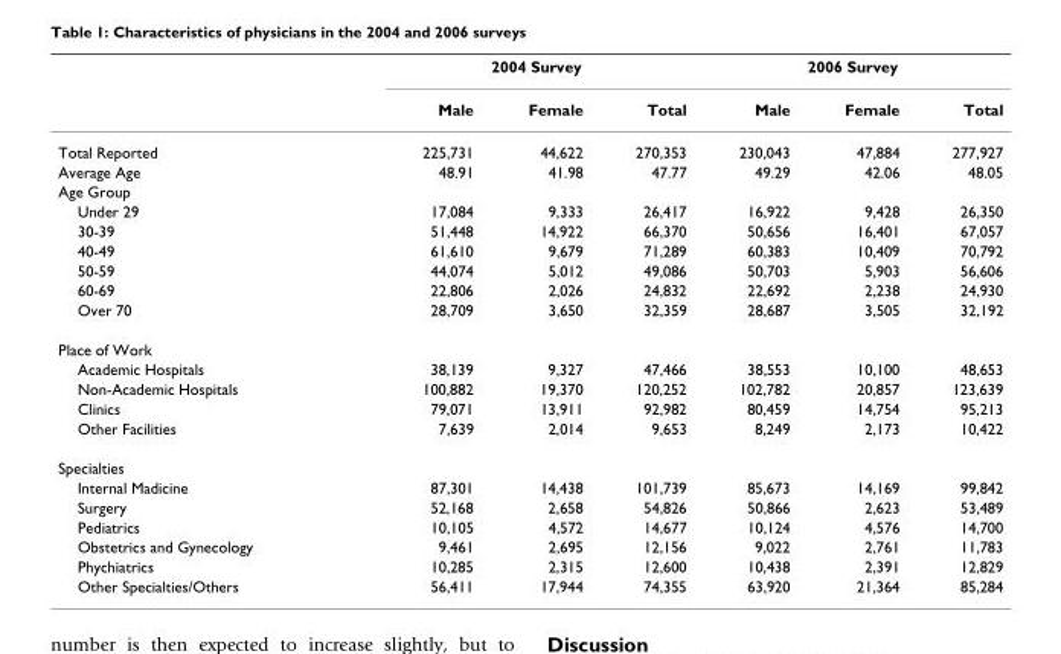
<table><thead><tr><td rowspan="2"></td><td colspan="3">2004 Survey</td><td colspan="3">2006 Survey</td></tr><tr><td>Male</td><td>Female</td><td>Total</td><td>Male</td><td>Female</td><td>Total</td></tr></thead><tbody><tr><td>Total Reported</td><td>225,731</td><td>44,622</td><td>270,353</td><td>230,043</td><td>47,884</td><td>277,927</td></tr><tr><td>Average Age</td><td>48.91</td><td>41.98</td><td>47.77</td><td>49.29</td><td>42.06</td><td>48.05</td></tr><tr><td colspan="7">Age Group</td></tr><tr><td>Under 29</td><td>17,084</td><td>9,333</td><td>26,417</td><td>16,922</td><td>9,428</td><td>26,350</td></tr><tr><td>30-39</td><td>51,448</td><td>14,922</td><td>66,370</td><td>50,656</td><td>16,401</td><td>67,057</td></tr><tr><td>40-49</td><td>61,610</td><td>9,679</td><td>71,289</td><td>60,383</td><td>10,409</td><td>70,792</td></tr><tr><td>50-59</td><td>44,074</td><td>5,012</td><td>49,086</td><td>50,703</td><td>5,903</td><td>56,606</td></tr><tr><td>60-69</td><td>22,806</td><td>2,026</td><td>24,832</td><td>22,692</td><td>2,238</td><td>24,930</td></tr><tr><td>Over 70</td><td>28,709</td><td>3,650</td><td>32,359</td><td>28,687</td><td>3,505</td><td>32,192</td></tr><tr><td colspan="7">Place of Work</td></tr><tr><td>Academic Hospitals</td><td>38,139</td><td>9,327</td><td>47,466</td><td>38,553</td><td>10,100</td><td>48,653</td></tr><tr><td>Non-Academic Hospitals</td><td>100,882</td><td>19,370</td><td>120,252</td><td>102,782</td><td>20,857</td><td>123,639</td></tr><tr><td>Clinics</td><td>79,071</td><td>13,911</td><td>92,982</td><td>80,459</td><td>14,754</td><td>95,213</td></tr><tr><td>Other Facilities</td><td>7,639</td><td>2,014</td><td>9,653</td><td>8,249</td><td>2,173</td><td>10,422</td></tr><tr><td colspan="7">Specialties</td></tr><tr><td>Internal Madicine</td><td>87,301</td><td>14,438</td><td>101,739</td><td>85,673</td><td>14,169</td><td>99,842</td></tr><tr><td>Surgery</td><td>52,168</td><td>2,658</td><td>54,826</td><td>50,866</td><td>2,623</td><td>53,489</td></tr><tr><td>Pediatrics</td><td>10,105</td><td>4,572</td><td>14,677</td><td>10,124</td><td>4,576</td><td>14,700</td></tr><tr><td>Obstetrics and Gynecology</td><td>9,461</td><td>2,695</td><td>12,156</td><td>9,022</td><td>2,761</td><td>11,783</td></tr><tr><td>Phychiatrics</td><td>10,285</td><td>2,315</td><td>12,600</td><td>10,438</td><td>2,391</td><td>12,829</td></tr><tr><td>Other Specialties/Others</td><td>56,411</td><td>17,944</td><td>74,355</td><td>63,920</td><td>21,364</td><td>85,284</td></tr></tbody></table>